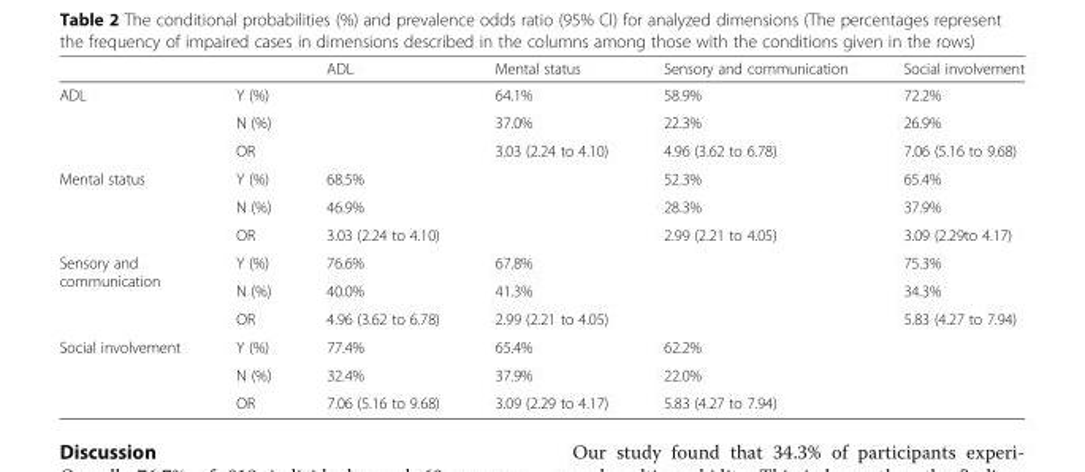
<table><thead><tr><td></td><td></td><td>ADL</td><td>Mental status</td><td>Sensory and communication</td><td>Social involvement</td></tr></thead><tbody><tr><td rowspan="3">ADL</td><td>Y (%)</td><td rowspan="3"></td><td>64.1%</td><td>58.9%</td><td>72.2%</td></tr><tr><td>N (%)</td><td>37.0%</td><td>22.3%</td><td>26.9%</td></tr><tr><td>OR</td><td>3.03 (2.24 to 4.10)</td><td>4.96 (3.62 to 6.78)</td><td>7.06 (5.16 to 9.68)</td></tr><tr><td rowspan="3">Mental status</td><td>Y (%)</td><td>68.5%</td><td rowspan="3"></td><td>52.3%</td><td>65.4%</td></tr><tr><td>N (%)</td><td>46.9%</td><td>28.3%</td><td>37.9%</td></tr><tr><td>OR</td><td>3.03 (2.24 to 4.10)</td><td>2.99 (2.21 to 4.05)</td><td>3.09 (2.29to 4.17)</td></tr><tr><td rowspan="3">Sensory and communication</td><td>Y (%)</td><td>76.6%</td><td>67.8%</td><td rowspan="3"></td><td>75.3%</td></tr><tr><td>N (%)</td><td>40.0%</td><td>41.3%</td><td>34.3%</td></tr><tr><td>OR</td><td>4.96 (3.62 to 6.78)</td><td>2.99 (2.21 to 4.05)</td><td>5.83 (4.27 to 7.94)</td></tr><tr><td rowspan="3">Social involvement</td><td>Y (%)</td><td>77.4%</td><td>65.4%</td><td>62.2%</td><td rowspan="3"></td></tr><tr><td>N (%)</td><td>32.4%</td><td>37.9%</td><td>22.0%</td></tr><tr><td>OR</td><td>7.06 (5.16 to 9.68)</td><td>3.09 (2.29 to 4.17)</td><td>5.83 (4.27 to 7.94)</td></tr></tbody></table>